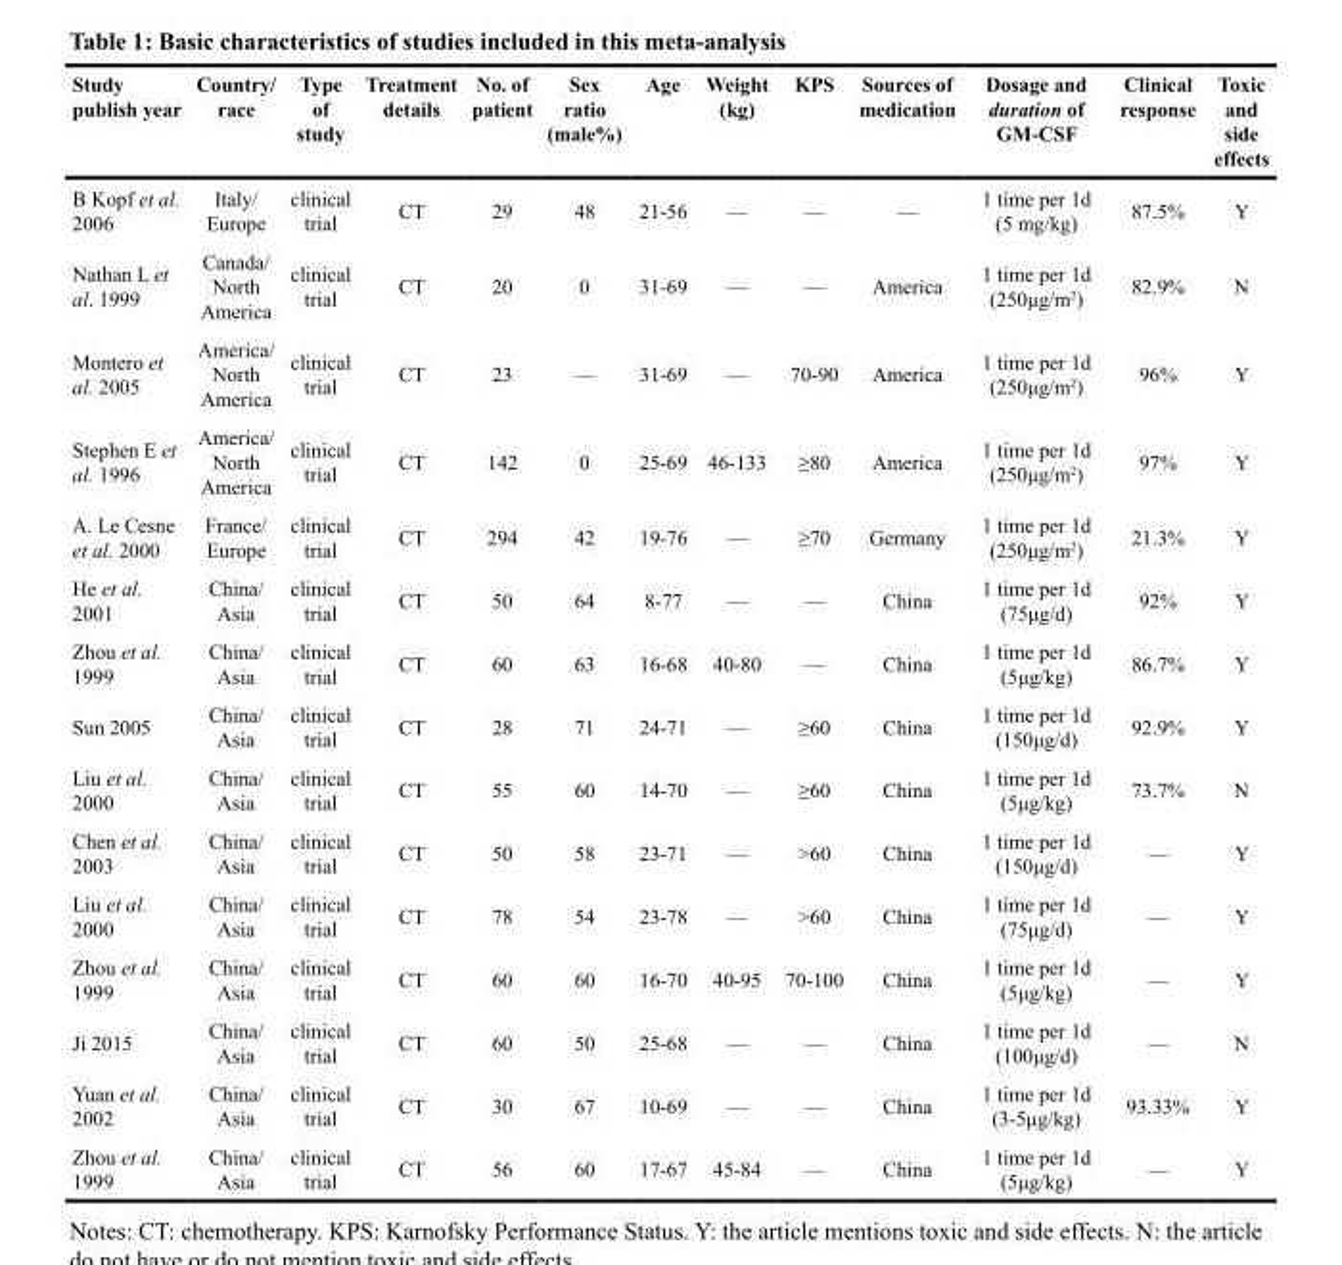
<table><thead><tr><td>Study publish year</td><td>Country/ race</td><td>Type of study</td><td>Treatment details</td><td>No. of patient</td><td>Sex ratio (male%)</td><td>Age</td><td>Weight (kg)</td><td>KPS</td><td>Sources of medication</td><td>Dosage and duration of GM-CSF</td><td>Clinical response</td><td>Toxic and side effects</td></tr></thead><tbody><tr><td>B Kopf et al. 2006</td><td>Italy/ Europe</td><td>clinical trial</td><td>CT</td><td>29</td><td>48</td><td>21-56</td><td>—</td><td>—</td><td>—</td><td>1 time per 1d (5 mg/kg)</td><td>87.5%</td><td>Y</td></tr><tr><td>Nathan L et al. 1999</td><td>Canada/ North America</td><td>clinical trial</td><td>CT</td><td>20</td><td>0</td><td>31-69</td><td>—</td><td>—</td><td>America</td><td>1 time per 1d (250μg/m<sup>2</sup>)</td><td>82.9%</td><td>N</td></tr><tr><td>Montero et al. 2005</td><td>America/ North America</td><td>clinical trial</td><td>CT</td><td>23</td><td>—</td><td>31-69</td><td>—</td><td>70-90</td><td>America</td><td>1 time per 1d (250μg/m<sup>2</sup>)</td><td>96%</td><td>Y</td></tr><tr><td>Stephen E et al. 1996</td><td>America/ North America</td><td>clinical trial</td><td>CT</td><td>142</td><td>0</td><td>25-69</td><td>46-133</td><td>≥80</td><td>America</td><td>1 time per 1d (250μg/m<sup>2</sup>)</td><td>97%</td><td>Y</td></tr><tr><td>A. Le Cesne et al. 2000</td><td>France/ Europe</td><td>clinical trial</td><td>CT</td><td>294</td><td>42</td><td>19-76</td><td>—</td><td>≥70</td><td>Germany</td><td>1 time per 1d (250μg/m<sup>2</sup>)</td><td>21.3%</td><td>Y</td></tr><tr><td>He et al. 2001</td><td>China/ Asia</td><td>clinical trial</td><td>CT</td><td>50</td><td>64</td><td>8-77</td><td>—</td><td>—</td><td>China</td><td>1 time per 1d (75μg/d)</td><td>92%</td><td>Y</td></tr><tr><td>Zhou et al. 1999</td><td>China/ Asia</td><td>clinical trial</td><td>CT</td><td>60</td><td>63</td><td>16-68</td><td>40-80</td><td>—</td><td>China</td><td>1 time per 1d (5μg/kg)</td><td>86.7%</td><td>Y</td></tr><tr><td>Sun 2005</td><td>China/ Asia</td><td>clinical trial</td><td>CT</td><td>28</td><td>71</td><td>24-71</td><td>—</td><td>≥60</td><td>China</td><td>1 time per 1d (150μg/d)</td><td>92.9%</td><td>Y</td></tr><tr><td>Liu et al. 2000</td><td>China/ Asia</td><td>clinical trial</td><td>CT</td><td>55</td><td>60</td><td>14-70</td><td>—</td><td>≥60</td><td>China</td><td>1 time per 1d (5μg/kg)</td><td>73.7%</td><td>N</td></tr><tr><td>Chen et al. 2003</td><td>China/ Asia</td><td>clinical trial</td><td>CT</td><td>50</td><td>58</td><td>23-71</td><td>—</td><td>&gt;60</td><td>China</td><td>1 time per 1d (150μg/d)</td><td>—</td><td>Y</td></tr><tr><td>Liu et al. 2000</td><td>China/ Asia</td><td>clinical trial</td><td>CT</td><td>78</td><td>54</td><td>23-78</td><td>—</td><td>&gt;60</td><td>China</td><td>1 time per 1d (75μg/d)</td><td>—</td><td>Y</td></tr><tr><td>Zhou et al. 1999</td><td>China/ Asia</td><td>clinical trial</td><td>CT</td><td>60</td><td>60</td><td>16-70</td><td>40-95</td><td>70-100</td><td>China</td><td>1 time per 1d (5μg/kg)</td><td>—</td><td>Y</td></tr><tr><td>Ji 2015</td><td>China/ Asia</td><td>clinical trial</td><td>CT</td><td>60</td><td>50</td><td>25-68</td><td>—</td><td>—</td><td>China</td><td>1 time per 1d (100μg/d)</td><td>—</td><td>N</td></tr><tr><td>Yuan et al. 2002</td><td>China/ Asia</td><td>clinical trial</td><td>CT</td><td>30</td><td>67</td><td>10-69</td><td>—</td><td>—</td><td>China</td><td>1 time per 1d (3-5μg/kg)</td><td>93.33%</td><td>Y</td></tr><tr><td>Zhou et al. 1999</td><td>China/ Asia</td><td>clinical trial</td><td>CT</td><td>56</td><td>60</td><td>17-67</td><td>45-84</td><td>—</td><td>China</td><td>1 time per 1d (5μg/kg)</td><td>—</td><td>Y</td></tr></tbody></table>